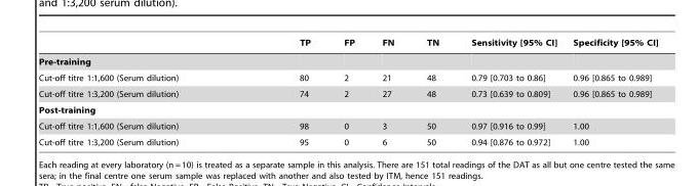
<table><thead><tr><td></td><td>TP</td><td>FP</td><td>FN</td><td>TN</td><td>Sensitivity [95% CI]</td><td>Specificity [95% CI]</td></tr></thead><tbody><tr><td colspan="7">Pre-training</td></tr><tr><td>Cut-off titre 1:1,600 (Serum dilution)</td><td>80</td><td>2</td><td>21</td><td>48</td><td>0.79 [0.703 to 0.86]</td><td>0.96 [0.865 to 0.989]</td></tr><tr><td>Cut-off titre 1:3,200 (Serum dilution)</td><td>74</td><td>2</td><td>27</td><td>48</td><td>0.73 [0.639 to 0.809]</td><td>0.96 [0.865 to 0.989]</td></tr><tr><td colspan="7">Post-training</td></tr><tr><td>Cut-off titre 1:1,600 (Serum dilution)</td><td>98</td><td>0</td><td>3</td><td>50</td><td>0.97 [0.916 to 0.99]</td><td>1.00</td></tr><tr><td>Cut-off titre 1:3,200 (Serum dilution)</td><td>95</td><td>0</td><td>6</td><td>50</td><td>0.94 [0.876 to 0.972]</td><td>1.00</td></tr></tbody></table>